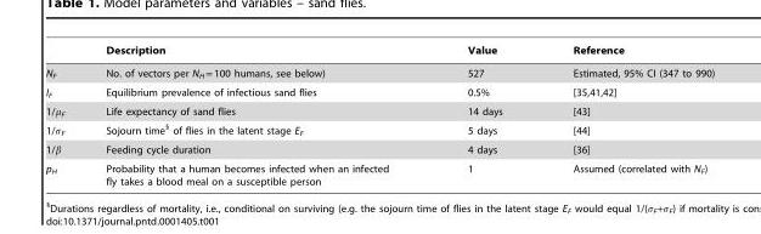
<table><thead><tr><td></td><td>Description</td><td>Value</td><td>Reference</td></tr></thead><tbody><tr><td>N<sub>F</sub></td><td>No. of vectors per N<sub>H</sub> = 100 humans, see below)</td><td>527</td><td>Estimated, 95% CI (347 to 990)</td></tr><tr><td>I<sub>F</sub></td><td>Equilibrium prevalence of infectious sand flies</td><td>0.5%</td><td>[35,41,42]</td></tr><tr><td>1/μ<sub>F</sub></td><td>Life expectancy of sand flies</td><td>14 days</td><td>[43]</td></tr><tr><td>1/σ<sub>F</sub></td><td>Sojourn time§ of flies in the latent stage E<sub>F</sub></td><td>5 days</td><td>[44]</td></tr><tr><td>1/β</td><td>Feeding cycle duration</td><td>4 days</td><td>[36]</td></tr><tr><td>p<sub>H</sub></td><td>Probability that a human becomes infected when an infected fly takes a blood meal on a susceptible person</td><td>1</td><td>Assumed (correlated with N<sub>F</sub>)</td></tr></tbody></table>